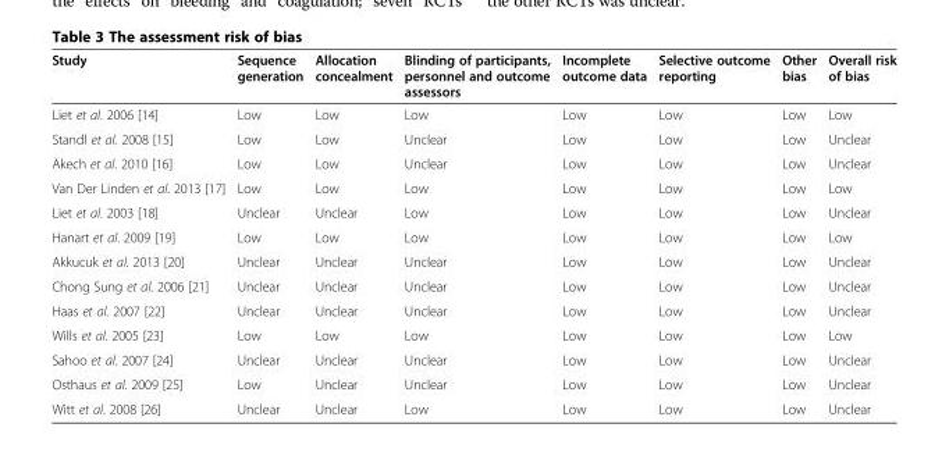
<table><thead><tr><td>Study</td><td>Sequence generation</td><td>Allocation concealment</td><td>Blinding of participants, personnel and outcome assessors</td><td>Incomplete outcome data</td><td>Selective outcome reporting</td><td>Other bias</td><td>Overall risk of bias</td></tr></thead><tbody><tr><td>Liet et al. 2006 [14]</td><td>Low</td><td>Low</td><td>Low</td><td>Low</td><td>Low</td><td>Low</td><td>Low</td></tr><tr><td>Standl et al. 2008 [15]</td><td>Low</td><td>Low</td><td>Unclear</td><td>Low</td><td>Low</td><td>Low</td><td>Unclear</td></tr><tr><td>Akech et al. 2010 [16]</td><td>Low</td><td>Low</td><td>Unclear</td><td>Low</td><td>Low</td><td>Low</td><td>Unclear</td></tr><tr><td>Van Der Linden et al. 2013 [17]</td><td>Low</td><td>Low</td><td>Low</td><td>Low</td><td>Low</td><td>Low</td><td>Low</td></tr><tr><td>Liet et al. 2003 [18]</td><td>Unclear</td><td>Unclear</td><td>Low</td><td>Low</td><td>Low</td><td>Low</td><td>Unclear</td></tr><tr><td>Hanart et al. 2009 [19]</td><td>Low</td><td>Low</td><td>Low</td><td>Low</td><td>Low</td><td>Low</td><td>Low</td></tr><tr><td>Akkucuk et al. 2013 [20]</td><td>Unclear</td><td>Unclear</td><td>Unclear</td><td>Low</td><td>Low</td><td>Low</td><td>Unclear</td></tr><tr><td>Chong Sung et al. 2006 [21]</td><td>Unclear</td><td>Unclear</td><td>Unclear</td><td>Low</td><td>Low</td><td>Low</td><td>Unclear</td></tr><tr><td>Haas et al. 2007 [22]</td><td>Unclear</td><td>Unclear</td><td>Unclear</td><td>Low</td><td>Low</td><td>Low</td><td>Unclear</td></tr><tr><td>Wills et al. 2005 [23]</td><td>Low</td><td>Low</td><td>Low</td><td>Low</td><td>Low</td><td>Low</td><td>Low</td></tr><tr><td>Sahoo et al. 2007 [24]</td><td>Unclear</td><td>Unclear</td><td>Unclear</td><td>Low</td><td>Low</td><td>Low</td><td>Unclear</td></tr><tr><td>Osthaus et al. 2009 [25]</td><td>Low</td><td>Unclear</td><td>Unclear</td><td>Low</td><td>Low</td><td>Low</td><td>Unclear</td></tr><tr><td>Witt et al. 2008 [26]</td><td>Unclear</td><td>Unclear</td><td>Low</td><td>Low</td><td>Low</td><td>Low</td><td>Unclear</td></tr></tbody></table>